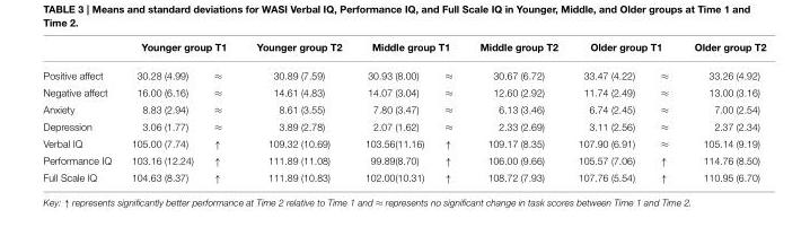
<table><thead><tr><td rowspan="2">Positive affect</td><td colspan="2">Younger group T1</td><td rowspan="2">Younger group T2 30.89 (7.59)</td><td colspan="2">Middle group T1</td><td rowspan="2">Middle group T2 30.67 (6.72)</td><td colspan="2">Older group T1</td><td rowspan="2">Older group T2 33.26 (4.92)</td></tr><tr><td>30.28 (4.99)</td><td>≈</td><td>30.93 (8.00)</td><td>≈</td><td>33.47 (4.22)</td><td>≈</td></tr></thead><tbody><tr><td>Negative affect</td><td>16.00 (6.16)</td><td>≈</td><td>14.61 (4.83)</td><td>14.07 (3.04)</td><td>≈</td><td>12.60 (2.92)</td><td>11.74 (2.49)</td><td>≈</td><td>13.00 (3.16)</td></tr><tr><td>Anxiety</td><td>8.83 (2.94)</td><td>≈</td><td>8.61 (3.55)</td><td>7.80 (3.47)</td><td>≈</td><td>6.13 (3.46)</td><td>6.74 (2.45)</td><td>≈</td><td>7.00 (2.54)</td></tr><tr><td>Depression</td><td>3.06 (1.77)</td><td>≈</td><td>3.89 (2.78)</td><td>2.07 (1.62)</td><td>≈</td><td>2.33 (2.69)</td><td>3.11 (2.56)</td><td>≈</td><td>2.37 (2.34)</td></tr><tr><td>Verbal IQ</td><td>105.00 (7.74)</td><td>↑</td><td>109.32 (10.69)</td><td>103.56(11.16)</td><td>↑</td><td>109.17 (8.35)</td><td>107.90 (6.91)</td><td>≈</td><td>105.14 (9.19)</td></tr><tr><td>Performance IQ</td><td>103.16 (12.24)</td><td>↑</td><td>111.89 (11.08)</td><td>99.89(8.70)</td><td>↑</td><td>106.00 (9.66)</td><td>105.57 (7.06)</td><td>↑</td><td>114.76 (8.50)</td></tr><tr><td>Full Scale IQ</td><td>104.63 (8.37)</td><td>↑</td><td>111.89 (10.83)</td><td>102.00(10.31)</td><td>↑</td><td>108.72 (7.93)</td><td>107.76 (5.54)</td><td>↑</td><td>110.95 (6.70)</td></tr></tbody></table>